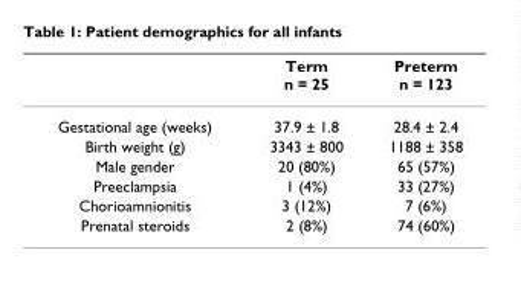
<table><thead><tr><td></td><td>Term n = 25</td><td>Preterm n = 123</td></tr></thead><tbody><tr><td>Gestational age (weeks)</td><td>37.9 ± 1.8</td><td>28.4 ± 2.4</td></tr><tr><td>Birth weight (g)</td><td>3343 ± 800</td><td>1188 ± 358</td></tr><tr><td>Male gender</td><td>20 (80%)</td><td>65 (57%)</td></tr><tr><td>Preeclampsia</td><td>1 (4%)</td><td>33 (27%)</td></tr><tr><td>Chorioamnionitis</td><td>3 (12%)</td><td>7 (6%)</td></tr><tr><td>Prenatal steroids</td><td>2 (8%)</td><td>74 (60%)</td></tr></tbody></table>